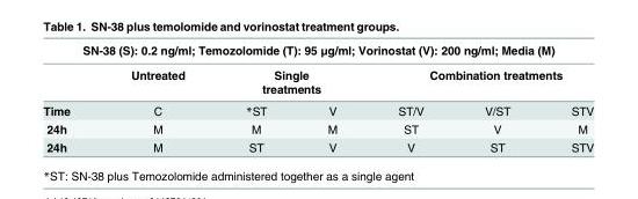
<table><thead><tr><td colspan="7">SN-38 (S): 0.2 ng/ml; Temozolomide (T): 95 μg/ml; Vorinostat (V): 200 ng/ml; Media (M)</td></tr><tr><td rowspan="2">Time</td><td rowspan="2">Untreated C</td><td colspan="2">Single treatments</td><td colspan="3">Combination treatments</td></tr><tr><td>*ST</td><td>V</td><td>ST/V</td><td>V/ST</td><td>STV</td></tr></thead><tbody><tr><td>24h</td><td>M</td><td>M</td><td>M</td><td>ST</td><td>V</td><td>M</td></tr><tr><td>24h</td><td>M</td><td>ST</td><td>V</td><td>V</td><td>ST</td><td>STV</td></tr></tbody></table>